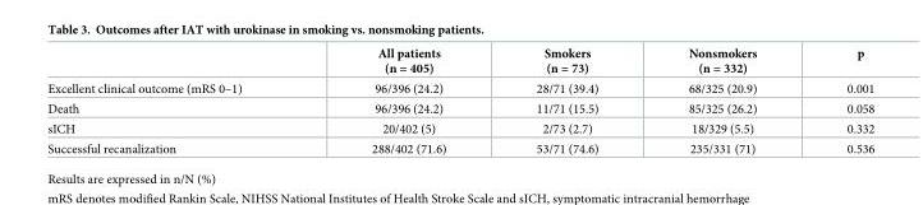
<table><thead><tr><td></td><td>All patients (n = 405)</td><td>Smokers (n = 73)</td><td>Nonsmokers (n = 332)</td><td>p</td></tr></thead><tbody><tr><td>Excellent clinical outcome (mRS 0–1)</td><td>96/396 (24.2)</td><td>28/71 (39.4)</td><td>68/325 (20.9)</td><td>0.001</td></tr><tr><td>Death</td><td>96/396 (24.2)</td><td>11/71 (15.5)</td><td>85/325 (26.2)</td><td>0.058</td></tr><tr><td>sICH</td><td>20/402 (5)</td><td>2/73 (2.7)</td><td>18/329 (5.5)</td><td>0.332</td></tr><tr><td>Successful recanalization</td><td>288/402 (71.6)</td><td>53/71 (74.6)</td><td>235/331 (71)</td><td>0.536</td></tr></tbody></table>